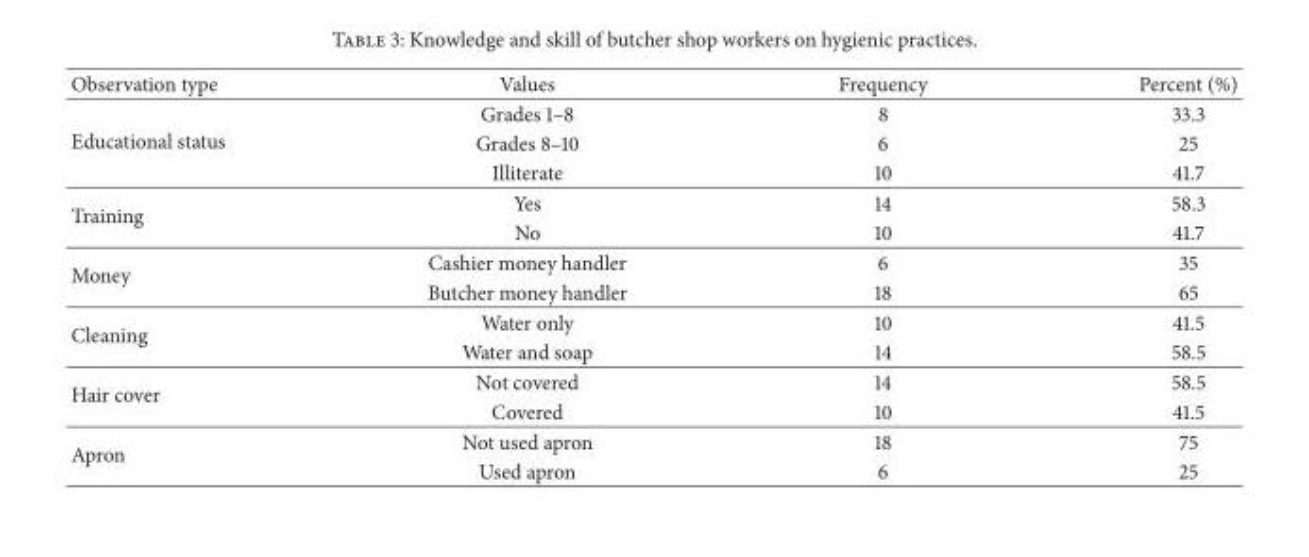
<table><thead><tr><td>Observation type</td><td>Values</td><td>Frequency</td><td>Percent (%)</td></tr></thead><tbody><tr><td rowspan="3">Educational status</td><td>Grades 1–8</td><td>8</td><td>33.3</td></tr><tr><td>Grades 8–10</td><td>6</td><td>25</td></tr><tr><td>Illiterate</td><td>10</td><td>41.7</td></tr><tr><td rowspan="2">Training</td><td>Yes</td><td>14</td><td>58.3</td></tr><tr><td>No</td><td>10</td><td>41.7</td></tr><tr><td rowspan="2">Money</td><td>Cashier money handler</td><td>6</td><td>35</td></tr><tr><td>Butcher money handler</td><td>18</td><td>65</td></tr><tr><td rowspan="2">Cleaning</td><td>Water only</td><td>10</td><td>41.5</td></tr><tr><td>Water and soap</td><td>14</td><td>58.5</td></tr><tr><td rowspan="2">Hair cover</td><td>Not covered</td><td>14</td><td>58.5</td></tr><tr><td>Covered</td><td>10</td><td>41.5</td></tr><tr><td rowspan="2">Apron</td><td>Not used apron</td><td>18</td><td>75</td></tr><tr><td>Used apron</td><td>6</td><td>25</td></tr></tbody></table>